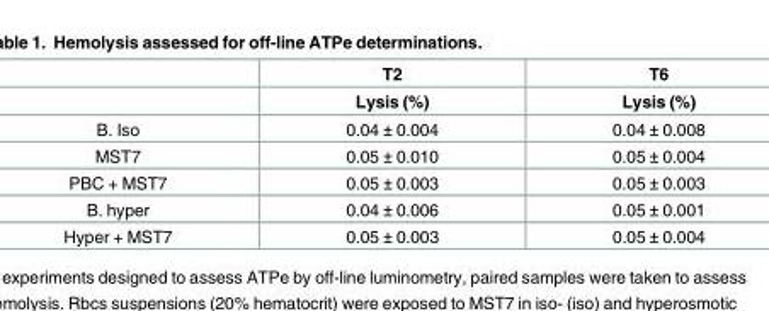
<table><thead><tr><td rowspan="2"></td><td rowspan="2">T2 Lysis (%)</td><td rowspan="2">T6 Lysis (%)</td></tr><tr></tr></thead><tbody><tr><td>B. Iso</td><td>0.04 ± 0.004</td><td>0.04 ± 0.008</td></tr><tr><td>MST7</td><td>0.05 ± 0.010</td><td>0.05 ± 0.004</td></tr><tr><td>PBC + MST7</td><td>0.05 ± 0.003</td><td>0.05 ± 0.003</td></tr><tr><td>B. hyper</td><td>0.04 ± 0.006</td><td>0.05 ± 0.001</td></tr><tr><td>Hyper + MST7</td><td>0.05 ± 0.003</td><td>0.05 ± 0.004</td></tr></tbody></table>